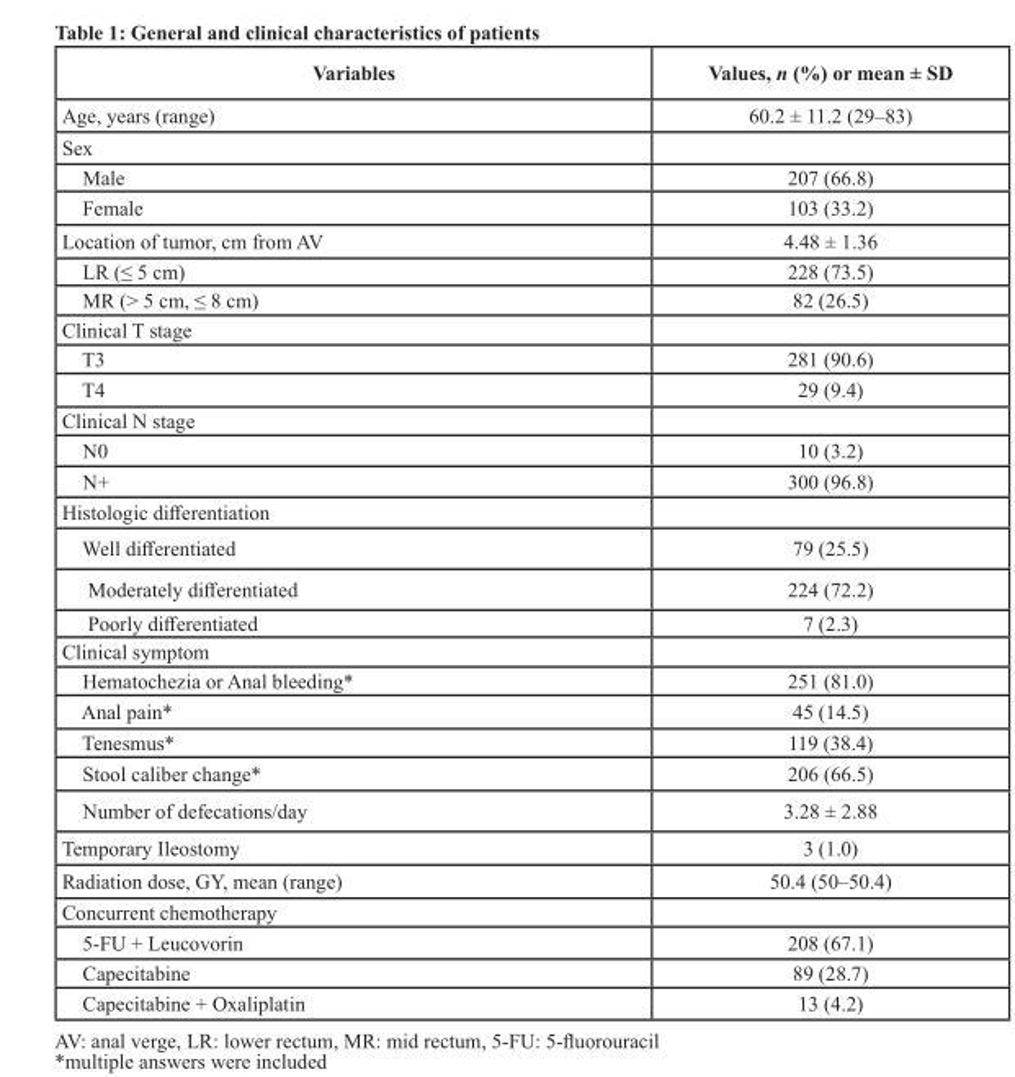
<table><thead><tr><td>Variables</td><td>Values, n (%) or mean ± SD</td></tr></thead><tbody><tr><td>Age, years (range)</td><td>60.2 ± 11.2 (29–83)</td></tr><tr><td colspan="2">Sex</td></tr><tr><td>Male</td><td>207 (66.8)</td></tr><tr><td>Female</td><td>103 (33.2)</td></tr><tr><td>Location of tumor, cm from AV</td><td>4.48 ± 1.36</td></tr><tr><td>LR (≤ 5 cm)</td><td>228 (73.5)</td></tr><tr><td>MR (&gt; 5 cm, ≤ 8 cm)</td><td>82 (26.5)</td></tr><tr><td colspan="2">Clinical T stage</td></tr><tr><td>T3</td><td>281 (90.6)</td></tr><tr><td>T4</td><td>29 (9.4)</td></tr><tr><td colspan="2">Clinical N stage</td></tr><tr><td>N0</td><td>10 (3.2)</td></tr><tr><td>N+</td><td>300 (96.8)</td></tr><tr><td colspan="2">Histologic differentiation</td></tr><tr><td>Well differentiated</td><td>79 (25.5)</td></tr><tr><td>Moderately differentiated</td><td>224 (72.2)</td></tr><tr><td>Poorly differentiated</td><td>7 (2.3)</td></tr><tr><td colspan="2">Clinical symptom</td></tr><tr><td>Hematochezia or Anal bleeding*</td><td>251 (81.0)</td></tr><tr><td>Anal pain*</td><td>45 (14.5)</td></tr><tr><td>Tenesmus*</td><td>119 (38.4)</td></tr><tr><td>Stool caliber change*</td><td>206 (66.5)</td></tr><tr><td>Number of defecations/day</td><td>3.28 ± 2.88</td></tr><tr><td>Temporary Ileostomy</td><td>3 (1.0)</td></tr><tr><td>Radiation dose, GY, mean (range)</td><td>50.4 (50–50.4)</td></tr><tr><td colspan="2">Concurrent chemotherapy</td></tr><tr><td>5-FU + Leucovorin</td><td>208 (67.1)</td></tr><tr><td>Capecitabine</td><td>89 (28.7)</td></tr><tr><td>Capecitabine + Oxaliplatin</td><td>13 (4.2)</td></tr></tbody></table>